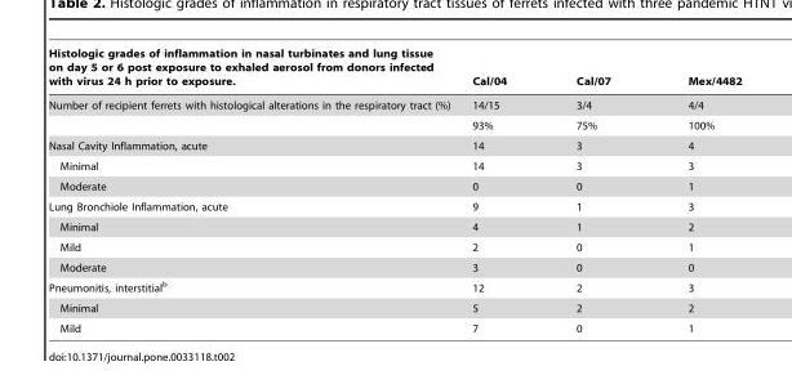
<table><thead><tr><td>Histologic grades of inflammation in nasal turbinates and lung tissue on day 5 or 6 post exposure to exhaled aerosol from donors infected with virus 24 h prior to exposure.</td><td>Cal/04</td><td>Cal/07</td><td>Mex/4482</td></tr></thead><tbody><tr><td rowspan="2">Number of recipient ferrets with histological alterations in the respiratory tract (%)</td><td>14/15</td><td>3/4</td><td>4/4</td></tr><tr><td>93%</td><td>75%</td><td>100%</td></tr><tr><td>Nasal Cavity Inflammation, acute</td><td>14</td><td>3</td><td>4</td></tr><tr><td>Minimal</td><td>14</td><td>3</td><td>3</td></tr><tr><td>Moderate</td><td>0</td><td>0</td><td>1</td></tr><tr><td>Lung Bronchiole Inflammation, acute</td><td>9</td><td>1</td><td>3</td></tr><tr><td>Minimal</td><td>4</td><td>1</td><td>2</td></tr><tr><td>Mild</td><td>2</td><td>0</td><td>1</td></tr><tr><td>Moderate</td><td>3</td><td>0</td><td>0</td></tr><tr><td>Pneumonitis, interstitial<sup>b</sup></td><td>12</td><td>2</td><td>3</td></tr><tr><td>Minimal</td><td>5</td><td>2</td><td>2</td></tr><tr><td>Mild</td><td>7</td><td>0</td><td>1</td></tr></tbody></table>